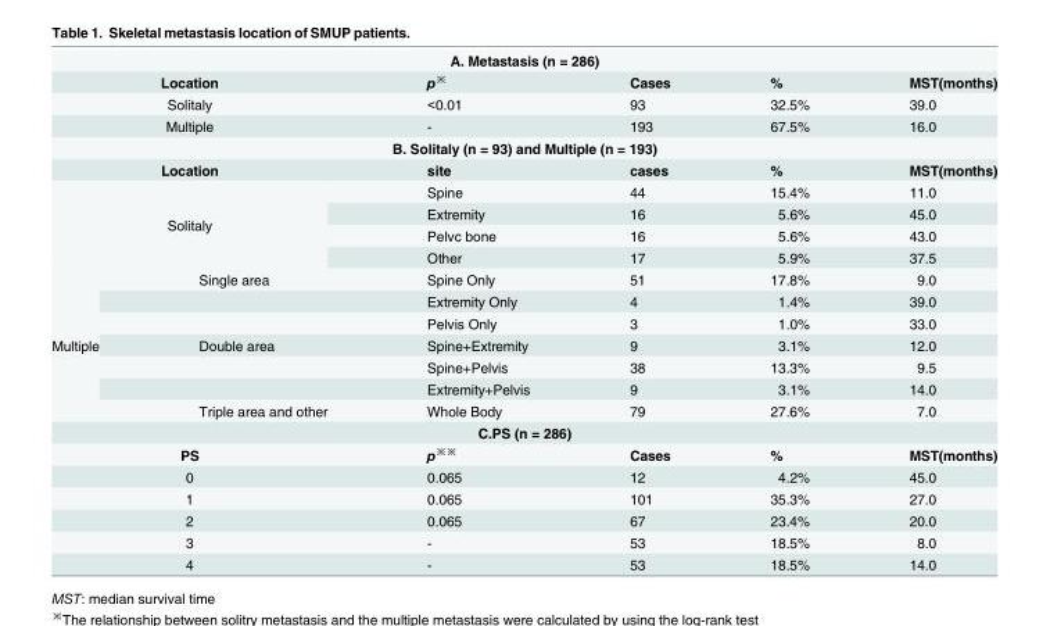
<table><tbody><tr><td colspan="6">A. Metastasis (n = 286)</td></tr><tr><td colspan="2">Location</td><td>p<sup>※</sup></td><td>Cases</td><td>%</td><td>MST(months)</td></tr><tr><td colspan="2">Solitaly</td><td>&lt;0.01</td><td>93</td><td>32.5%</td><td>39.0</td></tr><tr><td colspan="2">Multiple</td><td>-</td><td>193</td><td>67.5%</td><td>16.0</td></tr><tr><td colspan="6">B. Solitaly (n = 93) and Multiple (n = 193)</td></tr><tr><td colspan="2">Location</td><td>site</td><td>cases</td><td>%</td><td>MST(months)</td></tr><tr><td rowspan="4" colspan="2">Solitaly</td><td>Spine</td><td>44</td><td>15.4%</td><td>11.0</td></tr><tr><td>Extremity</td><td>16</td><td>5.6%</td><td>45.0</td></tr><tr><td>Pelvc bone</td><td>16</td><td>5.6%</td><td>43.0</td></tr><tr><td>Other</td><td>17</td><td>5.9%</td><td>37.5</td></tr><tr><td rowspan="7">Multiple</td><td>Single area</td><td>Spine Only</td><td>51</td><td>17.8%</td><td>9.0</td></tr><tr><td></td><td>Extremity Only</td><td>4</td><td>1.4%</td><td>39.0</td></tr><tr><td></td><td>Pelvis Only</td><td>3</td><td>1.0%</td><td>33.0</td></tr><tr><td>Double area</td><td>Spine+Extremity</td><td>9</td><td>3.1%</td><td>12.0</td></tr><tr><td></td><td>Spine+Pelvis</td><td>38</td><td>13.3%</td><td>9.5</td></tr><tr><td></td><td>Extremity+Pelvis</td><td>9</td><td>3.1%</td><td>14.0</td></tr><tr><td>Triple area and other</td><td>Whole Body</td><td>79</td><td>27.6%</td><td>7.0</td></tr><tr><td colspan="6">C.PS (n = 286)</td></tr><tr><td colspan="2">PS</td><td>p<sup>※※</sup></td><td>Cases</td><td>%</td><td>MST(months)</td></tr><tr><td colspan="2">0</td><td>0.065</td><td>12</td><td>4.2%</td><td>45.0</td></tr><tr><td colspan="2">1</td><td>0.065</td><td>101</td><td>35.3%</td><td>27.0</td></tr><tr><td colspan="2">2</td><td>0.065</td><td>67</td><td>23.4%</td><td>20.0</td></tr><tr><td colspan="2">3</td><td>-</td><td>53</td><td>18.5%</td><td>8.0</td></tr><tr><td colspan="2">4</td><td>-</td><td>53</td><td>18.5%</td><td>14.0</td></tr></tbody></table>